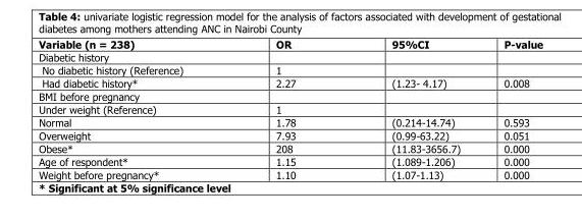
<table><thead><tr><td>Variable (n = 238)</td><td>OR</td><td>95%CI</td><td>P-value</td></tr></thead><tbody><tr><td colspan="4">Diabetic history</td></tr><tr><td>No diabetic history (Reference)</td><td>1</td><td></td><td></td></tr><tr><td>Had diabetic history*</td><td>2.27</td><td>(1.23- 4.17)</td><td>0.008</td></tr><tr><td colspan="4">BMI before pregnancy</td></tr><tr><td>Under weight (Reference)</td><td>1</td><td></td><td></td></tr><tr><td>Normal</td><td>1.78</td><td>(0.214-14.74)</td><td>0.593</td></tr><tr><td>Overweight</td><td>7.93</td><td>(0.99-63.22)</td><td>0.051</td></tr><tr><td>Obese*</td><td>208</td><td>(11.83-3656.7)</td><td>0.000</td></tr><tr><td>Age of respondent*</td><td>1.15</td><td>(1.089-1.206)</td><td>0.000</td></tr><tr><td>Weight before pregnancy*</td><td>1.10</td><td>(1.07-1.13)</td><td>0.000</td></tr></tbody></table>